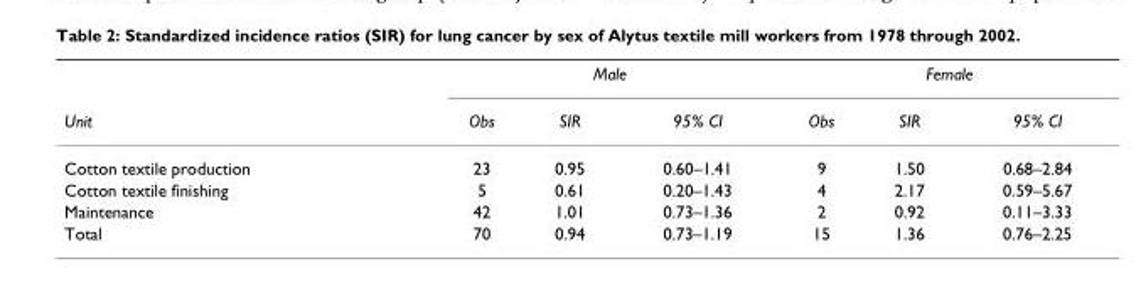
<table><thead><tr><td rowspan="2">Unit</td><td colspan="3">Male</td><td colspan="3">Female</td></tr><tr><td>Obs</td><td>SIR</td><td>95% CI</td><td>Obs</td><td>SIR</td><td>95% CI</td></tr></thead><tbody><tr><td>Cotton textile production</td><td>23</td><td>0.95</td><td>0.60–1.41</td><td>9</td><td>1.50</td><td>0.68–2.84</td></tr><tr><td>Cotton textile finishing</td><td>5</td><td>0.61</td><td>0.20–1.43</td><td>4</td><td>2.17</td><td>0.59–5.67</td></tr><tr><td>Maintenance</td><td>42</td><td>1.01</td><td>0.73–1.36</td><td>2</td><td>0.92</td><td>0.11–3.33</td></tr><tr><td>Total</td><td>70</td><td>0.94</td><td>0.73–1.19</td><td>15</td><td>1.36</td><td>0.76–2.25</td></tr></tbody></table>